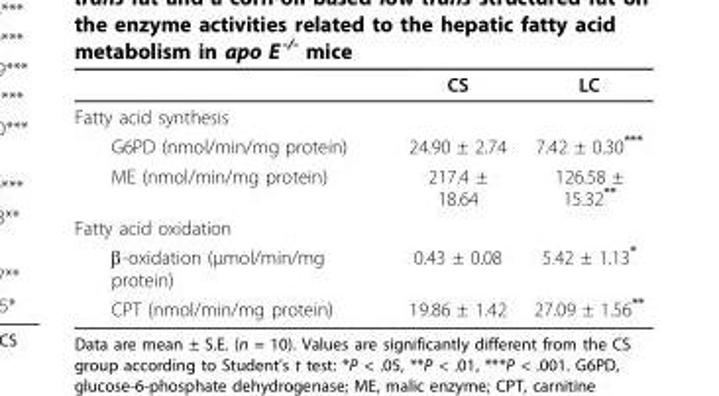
<table><thead><tr><td></td><td>CS</td><td>LC</td></tr></thead><tbody><tr><td colspan="3">Fatty acid synthesis</td></tr><tr><td>G6PD (nmol/min/mg protein)</td><td>24.90 ± 2.74</td><td>7.42 ± 0.30***</td></tr><tr><td>ME (nmol/min/mg protein)</td><td>217.4 ± 18.64</td><td>126.58 ± 15.32**</td></tr><tr><td colspan="3">Fatty acid oxidation</td></tr><tr><td>β-oxidation (μmol/min/mg protein)</td><td>0.43 ± 0.08</td><td>5.42 ± 1.13*</td></tr><tr><td>CPT (nmol/min/mg protein)</td><td>19.86 ± 1.42</td><td>27.09 ± 1.56**</td></tr></tbody></table>